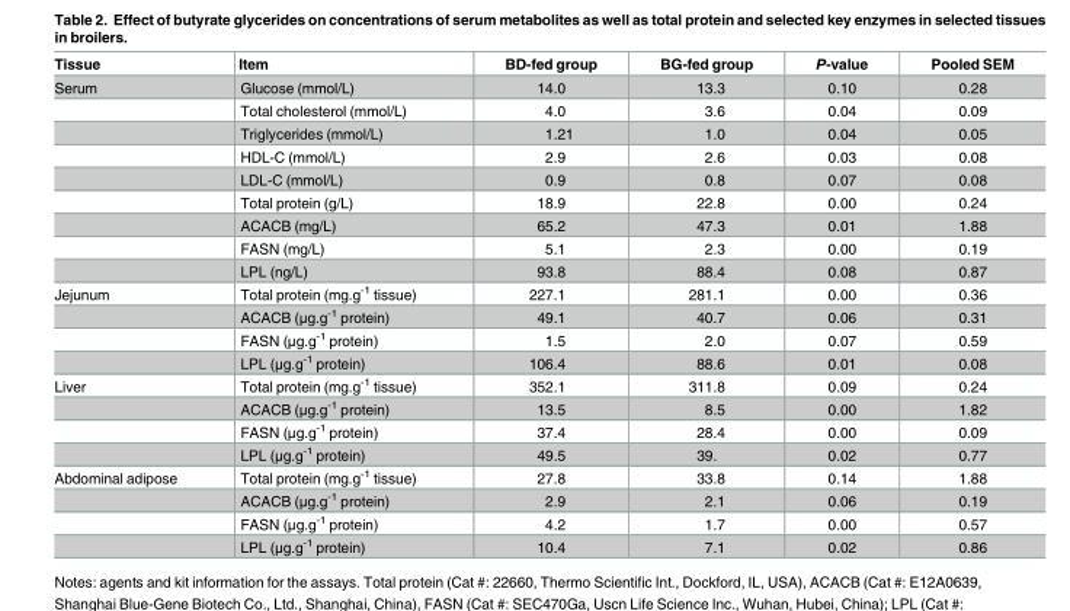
<table><thead><tr><td>Tissue</td><td>Item</td><td>BD-fed group</td><td>BG-fed group</td><td>P-value</td><td>Pooled SEM</td></tr></thead><tbody><tr><td rowspan="9">Serum</td><td>Glucose (mmol/L)</td><td>14.0</td><td>13.3</td><td>0.10</td><td>0.28</td></tr><tr><td>Total cholesterol (mmol/L)</td><td>4.0</td><td>3.6</td><td>0.04</td><td>0.09</td></tr><tr><td>Triglycerides (mmol/L)</td><td>1.21</td><td>1.0</td><td>0.04</td><td>0.05</td></tr><tr><td>HDL-C (mmol/L)</td><td>2.9</td><td>2.6</td><td>0.03</td><td>0.08</td></tr><tr><td>LDL-C (mmol/L)</td><td>0.9</td><td>0.8</td><td>0.07</td><td>0.08</td></tr><tr><td>Total protein (g/L)</td><td>18.9</td><td>22.8</td><td>0.00</td><td>0.24</td></tr><tr><td>ACACB (mg/L)</td><td>65.2</td><td>47.3</td><td>0.01</td><td>1.88</td></tr><tr><td>FASN (mg/L)</td><td>5.1</td><td>2.3</td><td>0.00</td><td>0.19</td></tr><tr><td>LPL (ng/L)</td><td>93.8</td><td>88.4</td><td>0.08</td><td>0.87</td></tr><tr><td rowspan="4">Jejunum</td><td>Total protein (mg.g<sup>-1</sup> tissue)</td><td>227.1</td><td>281.1</td><td>0.00</td><td>0.36</td></tr><tr><td>ACACB (μg.g<sup>-1</sup> protein)</td><td>49.1</td><td>40.7</td><td>0.06</td><td>0.31</td></tr><tr><td>FASN (μg.g<sup>-1</sup> protein)</td><td>1.5</td><td>2.0</td><td>0.07</td><td>0.59</td></tr><tr><td>LPL (μg.g<sup>-1</sup> protein)</td><td>106.4</td><td>88.6</td><td>0.01</td><td>0.08</td></tr><tr><td rowspan="4">Liver</td><td>Total protein (mg.g<sup>-1</sup> tissue)</td><td>352.1</td><td>311.8</td><td>0.09</td><td>0.24</td></tr><tr><td>ACACB (μg.g<sup>-1</sup> protein)</td><td>13.5</td><td>8.5</td><td>0.00</td><td>1.82</td></tr><tr><td>FASN (μg.g<sup>-1</sup> protein)</td><td>37.4</td><td>28.4</td><td>0.00</td><td>0.09</td></tr><tr><td>LPL (μg.g<sup>-1</sup> protein)</td><td>49.5</td><td>39.</td><td>0.02</td><td>0.77</td></tr><tr><td rowspan="4">Abdominal adipose</td><td>Total protein (mg.g<sup>-1</sup> tissue)</td><td>27.8</td><td>33.8</td><td>0.14</td><td>1.88</td></tr><tr><td>ACACB (μg.g<sup>-1</sup> protein)</td><td>2.9</td><td>2.1</td><td>0.06</td><td>0.19</td></tr><tr><td>FASN (μg.g<sup>-1</sup> protein)</td><td>4.2</td><td>1.7</td><td>0.00</td><td>0.57</td></tr><tr><td>LPL (μg.g<sup>-1</sup> protein)</td><td>10.4</td><td>7.1</td><td>0.02</td><td>0.86</td></tr></tbody></table>